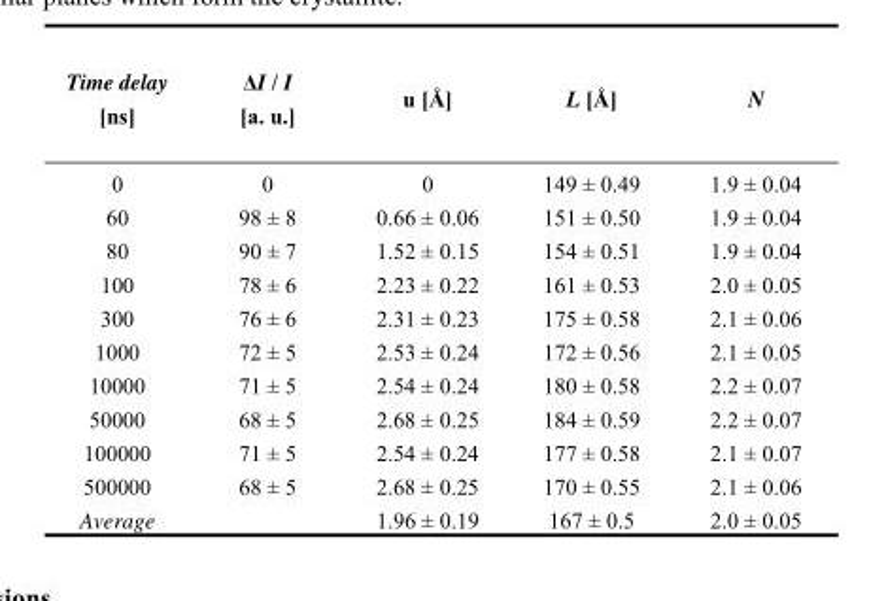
<table><thead><tr><td>Time delay [ns]</td><td>ΔI / I [a. u.]</td><td>u [Å]</td><td>L [Å]</td><td>N</td></tr></thead><tbody><tr><td>0</td><td>0</td><td>0</td><td>149 ± 0.49</td><td>1.9 ± 0.04</td></tr><tr><td>60</td><td>98 ± 8</td><td>0.66 ± 0.06</td><td>151 ± 0.50</td><td>1.9 ± 0.04</td></tr><tr><td>80</td><td>90 ± 7</td><td>1.52 ± 0.15</td><td>154 ± 0.51</td><td>1.9 ± 0.04</td></tr><tr><td>100</td><td>78 ± 6</td><td>2.23 ± 0.22</td><td>161 ± 0.53</td><td>2.0 ± 0.05</td></tr><tr><td>300</td><td>76 ± 6</td><td>2.31 ± 0.23</td><td>175 ± 0.58</td><td>2.1 ± 0.06</td></tr><tr><td>1000</td><td>72 ± 5</td><td>2.53 ± 0.24</td><td>172 ± 0.56</td><td>2.1 ± 0.05</td></tr><tr><td>10000</td><td>71 ± 5</td><td>2.54 ± 0.24</td><td>180 ± 0.58</td><td>2.2 ± 0.07</td></tr><tr><td>50000</td><td>68 ± 5</td><td>2.68 ± 0.25</td><td>184 ± 0.59</td><td>2.2 ± 0.07</td></tr><tr><td>100000</td><td>71 ± 5</td><td>2.54 ± 0.24</td><td>177 ± 0.58</td><td>2.1 ± 0.07</td></tr><tr><td>500000</td><td>68 ± 5</td><td>2.68 ± 0.25</td><td>170 ± 0.55</td><td>2.1 ± 0.06</td></tr><tr><td>Average</td><td></td><td>1.96 ± 0.19</td><td>167 ± 0.5</td><td>2.0 ± 0.05</td></tr></tbody></table>